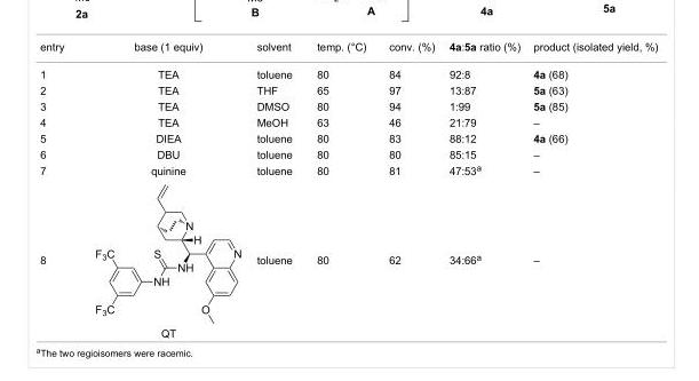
<table><tbody><tr><td>entry</td><td>base (1 equiv)</td><td>solvent</td><td>temp. (°C)</td><td>conv. (%)</td><td>4a:5a ratio (%)</td><td>product (isolated yield, %)</td></tr><tr><td>1</td><td>TEA</td><td>toluene</td><td>80</td><td>84</td><td>92:8</td><td>4a (68)</td></tr><tr><td>2</td><td>TEA</td><td>THF</td><td>65</td><td>97</td><td>13:87</td><td>5a (63)</td></tr><tr><td>3</td><td>TEA</td><td>DMSO</td><td>80</td><td>94</td><td>1:99</td><td>5a (85)</td></tr><tr><td>4</td><td>TEA</td><td>MeOH</td><td>63</td><td>46</td><td>21:79</td><td>–</td></tr><tr><td>5</td><td>DIEA</td><td>toluene</td><td>80</td><td>83</td><td>88:12</td><td>4a (66)</td></tr><tr><td>6</td><td>DBU</td><td>toluene</td><td>80</td><td>80</td><td>85:15</td><td>–</td></tr><tr><td>7</td><td>quinine</td><td>toluene</td><td>80</td><td>81</td><td>47:53<sup>a</sup></td><td>–</td></tr><tr><td>8</td><td>QT</td><td>toluene</td><td>80</td><td>62</td><td>34:66<sup>a</sup></td><td>–</td></tr></tbody></table>